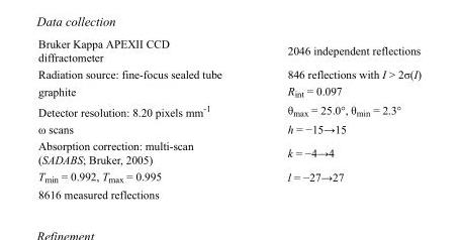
<table><tbody><tr><td>Bruker Kappa APEXII CCD diffractometer</td><td>2046 independent reflections</td></tr><tr><td>Radiation source: fine-focus sealed tube</td><td>846 reflections with I &gt; 2σ(I)</td></tr><tr><td>graphite</td><td>R<sub>int</sub> = 0.097</td></tr><tr><td>Detector resolution: 8.20 pixels mm<sup>-1</sup></td><td>θ<sub>max</sub> = 25.0°, θ<sub>min</sub> = 2.3°</td></tr><tr><td>ω scans</td><td>h = −15→15</td></tr><tr><td>Absorption correction: multi-scan (SADABS; Bruker, 2005)</td><td>k = −4→4</td></tr><tr><td>T<sub>min</sub> = 0.992, T<sub>max</sub> = 0.995</td><td>l = −27→27</td></tr><tr><td>8616 measured reflections</td><td></td></tr></tbody></table>